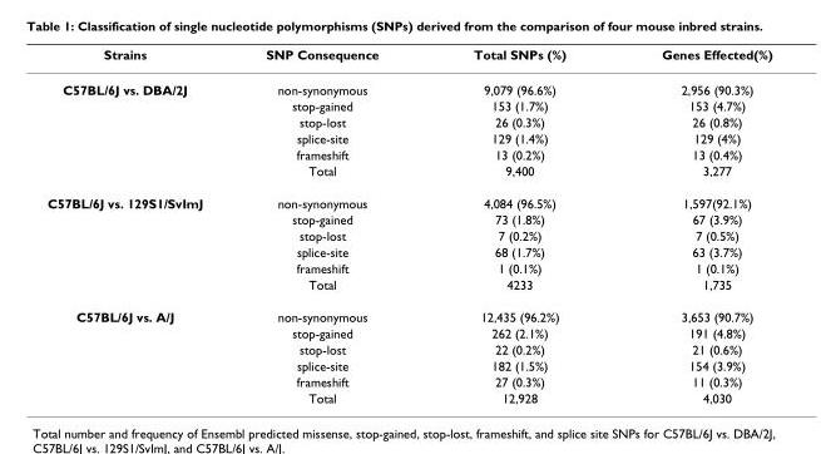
<table><thead><tr><td>Strains</td><td>SNP Consequence</td><td>Total SNPs (%)</td><td>Genes Effected(%)</td></tr></thead><tbody><tr><td rowspan="6">C57BL/6J vs. DBA/2J</td><td>non-synonymous</td><td>9,079 (96.6%)</td><td>2,956 (90.3%)</td></tr><tr><td>stop-gained</td><td>153 (1.7%)</td><td>153 (4.7%)</td></tr><tr><td>stop-lost</td><td>26 (0.3%)</td><td>26 (0.8%)</td></tr><tr><td>splice-site</td><td>129 (1.4%)</td><td>129 (4%)</td></tr><tr><td>frameshift</td><td>13 (0.2%)</td><td>13 (0.4%)</td></tr><tr><td>Total</td><td>9,400</td><td>3,277</td></tr><tr><td rowspan="6">C57BL/6J vs. 129S1/SvImJ</td><td>non-synonymous</td><td>4,084 (96.5%)</td><td>1,597(92.1%)</td></tr><tr><td>stop-gained</td><td>73 (1.8%)</td><td>67 (3.9%)</td></tr><tr><td>stop-lost</td><td>7 (0.2%)</td><td>7 (0.5%)</td></tr><tr><td>splice-site</td><td>68 (1.7%)</td><td>63 (3.7%)</td></tr><tr><td>frameshift</td><td>1 (0.1%)</td><td>1 (0.1%)</td></tr><tr><td>Total</td><td>4233</td><td>1,735</td></tr><tr><td rowspan="6">C57BL/6J vs. A/J</td><td>non-synonymous</td><td>12,435 (96.2%)</td><td>3,653 (90.7%)</td></tr><tr><td>stop-gained</td><td>262 (2.1%)</td><td>191 (4.8%)</td></tr><tr><td>stop-lost</td><td>22 (0.2%)</td><td>21 (0.6%)</td></tr><tr><td>splice-site</td><td>182 (1.5%)</td><td>154 (3.9%)</td></tr><tr><td>frameshift</td><td>27 (0.3%)</td><td>11 (0.3%)</td></tr><tr><td>Total</td><td>12,928</td><td>4,030</td></tr></tbody></table>